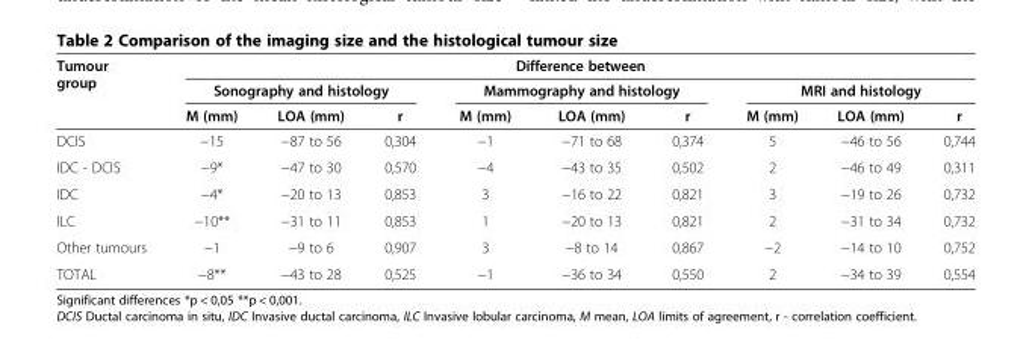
<table><thead><tr><td rowspan="3">Tumour group</td><td colspan="9">Difference between</td></tr><tr><td colspan="3">Sonography and histology</td><td colspan="3">Mammography and histology</td><td colspan="3">MRI and histology</td></tr><tr><td>M (mm)</td><td>LOA (mm)</td><td>r</td><td>M (mm)</td><td>LOA (mm)</td><td>r</td><td>M (mm)</td><td>LOA (mm)</td><td>r</td></tr></thead><tbody><tr><td>DCIS</td><td>−15</td><td>−87 to 56</td><td>0,304</td><td>−1</td><td>−71 to 68</td><td>0,374</td><td>5</td><td>−46 to 56</td><td>0,744</td></tr><tr><td>IDC - DCIS</td><td>−9*</td><td>−47 to 30</td><td>0,570</td><td>−4</td><td>−43 to 35</td><td>0,502</td><td>2</td><td>−46 to 49</td><td>0,311</td></tr><tr><td>IDC</td><td>−4*</td><td>−20 to 13</td><td>0,853</td><td>3</td><td>−16 to 22</td><td>0,821</td><td>3</td><td>−19 to 26</td><td>0,732</td></tr><tr><td>ILC</td><td>−10**</td><td>−31 to 11</td><td>0,853</td><td>1</td><td>−20 to 13</td><td>0,821</td><td>2</td><td>−31 to 34</td><td>0,732</td></tr><tr><td>Other tumours</td><td>−1</td><td>−9 to 6</td><td>0,907</td><td>3</td><td>−8 to 14</td><td>0,867</td><td>−2</td><td>−14 to 10</td><td>0,752</td></tr><tr><td>TOTAL</td><td>−8**</td><td>−43 to 28</td><td>0,525</td><td>−1</td><td>−36 to 34</td><td>0,550</td><td>2</td><td>−34 to 39</td><td>0,554</td></tr></tbody></table>